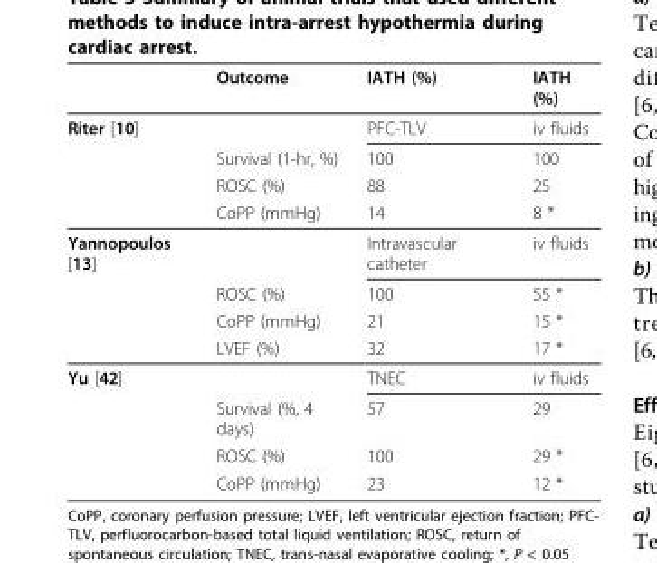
<table><thead><tr><td></td><td>Outcome</td><td>IATH (%)</td><td>IATH (%)</td></tr></thead><tbody><tr><td rowspan="4">Riter [10]</td><td></td><td>PFC-TLV</td><td>iv fluids</td></tr><tr><td>Survival (1-hr, %)</td><td>100</td><td>100</td></tr><tr><td>ROSC (%)</td><td>88</td><td>25</td></tr><tr><td>CoPP (mmHg)</td><td>14</td><td>8 *</td></tr><tr><td rowspan="4">Yannopoulos [13]</td><td></td><td>Intravascular catheter</td><td>iv fluids</td></tr><tr><td>ROSC (%)</td><td>100</td><td>55 *</td></tr><tr><td>CoPP (mmHg)</td><td>21</td><td>15 *</td></tr><tr><td>LVEF (%)</td><td>32</td><td>17 *</td></tr><tr><td rowspan="4">Yu [42]</td><td></td><td>TNEC</td><td>iv fluids</td></tr><tr><td>Survival (%, 4 days)</td><td>57</td><td>29</td></tr><tr><td>ROSC (%)</td><td>100</td><td>29 *</td></tr><tr><td>CoPP (mmHg)</td><td>23</td><td>12 *</td></tr></tbody></table>